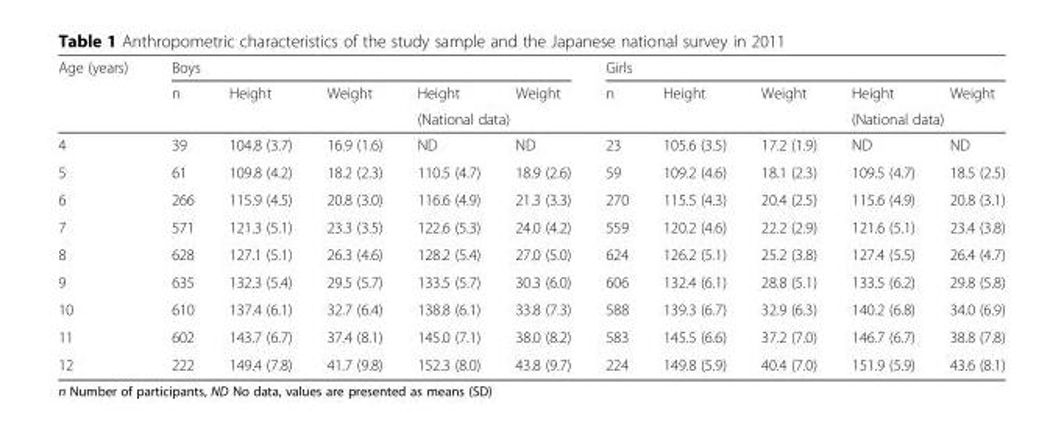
<table><thead><tr><td rowspan="3">Age (years)</td><td colspan="5">Boys</td><td colspan="5">Girls</td></tr><tr><td rowspan="2">n</td><td rowspan="2">Height</td><td rowspan="2">Weight</td><td>Height</td><td>Weight</td><td rowspan="2">n</td><td rowspan="2">Height</td><td rowspan="2">Weight</td><td>Height</td><td>Weight</td></tr><tr><td colspan="2">(National data)</td><td colspan="2">(National data)</td></tr></thead><tbody><tr><td>4</td><td>39</td><td>104.8 (3.7)</td><td>16.9 (1.6)</td><td>ND</td><td>ND</td><td>23</td><td>105.6 (3.5)</td><td>17.2 (1.9)</td><td>ND</td><td>ND</td></tr><tr><td>5</td><td>61</td><td>109.8 (4.2)</td><td>18.2 (2.3)</td><td>110.5 (4.7)</td><td>18.9 (2.6)</td><td>59</td><td>109.2 (4.6)</td><td>18.1 (2.3)</td><td>109.5 (4.7)</td><td>18.5 (2.5)</td></tr><tr><td>6</td><td>266</td><td>115.9 (4.5)</td><td>20.8 (3.0)</td><td>116.6 (4.9)</td><td>21.3 (3.3)</td><td>270</td><td>115.5 (4.3)</td><td>20.4 (2.5)</td><td>115.6 (4.9)</td><td>20.8 (3.1)</td></tr><tr><td>7</td><td>571</td><td>121.3 (5.1)</td><td>23.3 (3.5)</td><td>122.6 (5.3)</td><td>24.0 (4.2)</td><td>559</td><td>120.2 (4.6)</td><td>22.2 (2.9)</td><td>121.6 (5.1)</td><td>23.4 (3.8)</td></tr><tr><td>8</td><td>628</td><td>127.1 (5.1)</td><td>26.3 (4.6)</td><td>128.2 (5.4)</td><td>27.0 (5.0)</td><td>624</td><td>126.2 (5.1)</td><td>25.2 (3.8)</td><td>127.4 (5.5)</td><td>26.4 (4.7)</td></tr><tr><td>9</td><td>635</td><td>132.3 (5.4)</td><td>29.5 (5.7)</td><td>133.5 (5.7)</td><td>30.3 (6.0)</td><td>606</td><td>132.4 (6.1)</td><td>28.8 (5.1)</td><td>133.5 (6.2)</td><td>29.8 (5.8)</td></tr><tr><td>10</td><td>610</td><td>137.4 (6.1)</td><td>32.7 (6.4)</td><td>138.8 (6.1)</td><td>33.8 (7.3)</td><td>588</td><td>139.3 (6.7)</td><td>32.9 (6.3)</td><td>140.2 (6.8)</td><td>34.0 (6.9)</td></tr><tr><td>11</td><td>602</td><td>143.7 (6.7)</td><td>37.4 (8.1)</td><td>145.0 (7.1)</td><td>38.0 (8.2)</td><td>583</td><td>145.5 (6.6)</td><td>37.2 (7.0)</td><td>146.7 (6.7)</td><td>38.8 (7.8)</td></tr><tr><td>12</td><td>222</td><td>149.4 (7.8)</td><td>41.7 (9.8)</td><td>152.3 (8.0)</td><td>43.8 (9.7)</td><td>224</td><td>149.8 (5.9)</td><td>40.4 (7.0)</td><td>151.9 (5.9)</td><td>43.6 (8.1)</td></tr></tbody></table>